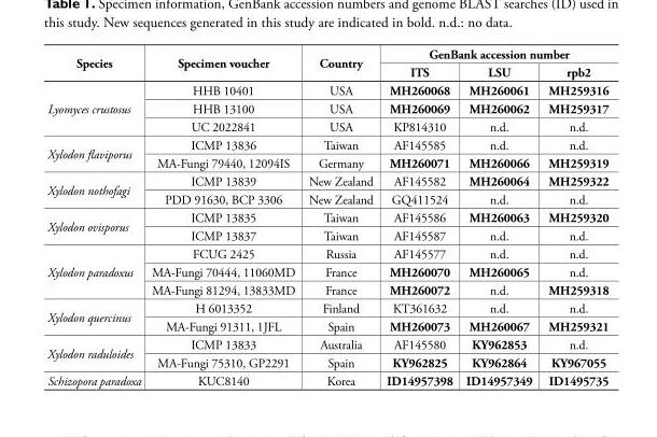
<table><thead><tr><td rowspan="2">Species</td><td rowspan="2">Specimen voucher</td><td rowspan="2">Country</td><td colspan="3">GenBank accession number</td></tr><tr><td>ITS</td><td>LSU</td><td>rpb2</td></tr></thead><tbody><tr><td rowspan="3">Lyomyces crustosus</td><td>HHB 10401</td><td>USA</td><td>MH260068</td><td>MH260061</td><td>MH259316</td></tr><tr><td>HHB 13100</td><td>USA</td><td>MH260069</td><td>MH260062</td><td>MH259317</td></tr><tr><td>UC 2022841</td><td>USA</td><td>KP814310</td><td>n.d.</td><td>n.d.</td></tr><tr><td rowspan="2">Xylodon flaviporus</td><td>ICMP 13836</td><td>Taiwan</td><td>AF145585</td><td>n.d.</td><td>n.d.</td></tr><tr><td>MA-Fungi 79440, 12094IS</td><td>Germany</td><td>MH260071</td><td>MH260066</td><td>MH259319</td></tr><tr><td rowspan="2">Xylodon nothofagi</td><td>ICMP 13839</td><td>New Zealand</td><td>AF145582</td><td>MH260064</td><td>MH259322</td></tr><tr><td>PDD 91630, BCP 3306</td><td>New Zealand</td><td>GQ411524</td><td>n.d.</td><td>n.d.</td></tr><tr><td rowspan="2">Xylodon ovisporus</td><td>ICMP 13835</td><td>Taiwan</td><td>AF145586</td><td>MH260063</td><td>MH259320</td></tr><tr><td>ICMP 13837</td><td>Taiwan</td><td>AF145587</td><td>n.d.</td><td>n.d.</td></tr><tr><td rowspan="3">Xylodon paradoxus</td><td>FCUG 2425</td><td>Russia</td><td>AF145577</td><td>n.d.</td><td>n.d.</td></tr><tr><td>MA-Fungi 70444, 11060MD</td><td>France</td><td>MH260070</td><td>MH260065</td><td>n.d.</td></tr><tr><td>MA-Fungi 81294, 13833MD</td><td>France</td><td>MH260072</td><td>n.d.</td><td>MH259318</td></tr><tr><td rowspan="2">Xylodon quercinus</td><td>H 6013352</td><td>Finland</td><td>KT361632</td><td>n.d.</td><td>n.d.</td></tr><tr><td>MA-Fungi 91311, 1JFL</td><td>Spain</td><td>MH260073</td><td>MH260067</td><td>MH259321</td></tr><tr><td rowspan="2">Xylodon raduloides</td><td>ICMP 13833</td><td>Australia</td><td>AF145580</td><td>KY962853</td><td>n.d.</td></tr><tr><td>MA-Fungi 75310, GP2291</td><td>Spain</td><td>KY962825</td><td>KY962864</td><td>KY967055</td></tr><tr><td>Schizopora paradoxa</td><td>KUC8140</td><td>Korea</td><td>ID14957398</td><td>ID14957349</td><td>ID1495735</td></tr></tbody></table>